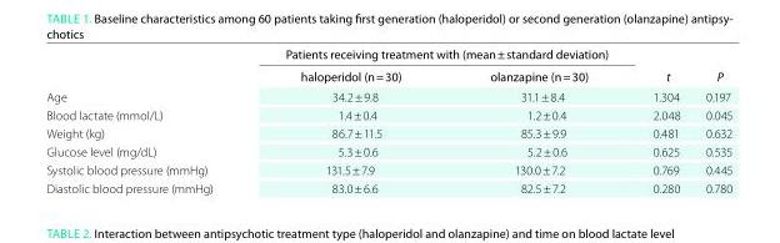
<table><thead><tr><td rowspan="2"></td><td colspan="2">Patients receiving treatment with (mean ± standard deviation)</td><td rowspan="2">t</td><td rowspan="2">P</td></tr><tr><td>haloperidol (n = 30)</td><td>olanzapine (n = 30)</td></tr></thead><tbody><tr><td>Age</td><td>34.2 ± 9.8</td><td>31.1 ± 8.4</td><td>1.304</td><td>0.197</td></tr><tr><td>Blood lactate (mmol/L)</td><td>1.4 ± 0.4</td><td>1.2 ± 0.4</td><td>2.048</td><td>0.045</td></tr><tr><td>Weight (kg)</td><td>86.7 ± 11.5</td><td>85.3 ± 9.9</td><td>0.481</td><td>0.632</td></tr><tr><td>Glucose level (mg/dL)</td><td>5.3 ± 0.6</td><td>5.2 ± 0.6</td><td>0.625</td><td>0.535</td></tr><tr><td>Systolic blood pressure (mmHg)</td><td>131.5 ± 7.9</td><td>130.0 ± 7.2</td><td>0.769</td><td>0.445</td></tr><tr><td>Diastolic blood pressure (mmHg)</td><td>83.0 ± 6.6</td><td>82.5 ± 7.2</td><td>0.280</td><td>0.780</td></tr></tbody></table>